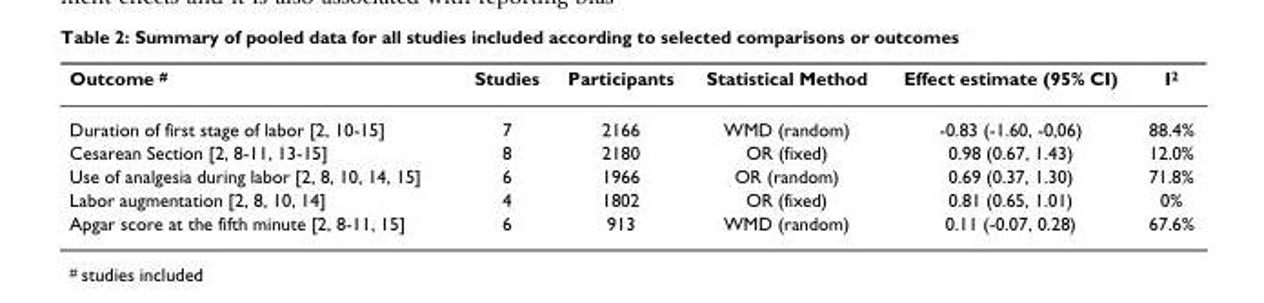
<table><thead><tr><td>Outcome #</td><td>Studies</td><td>Participants</td><td>Statistical Method</td><td>Effect estimate (95% CI)</td><td>I2</td></tr></thead><tbody><tr><td>Duration of first stage of labor [2, 10-15]</td><td>7</td><td>2166</td><td>WMD (random)</td><td>-0.83 (-1.60, -0,06)</td><td>88.4%</td></tr><tr><td>Cesarean Section [2, 8-11, 13-15]</td><td>8</td><td>2180</td><td>OR (fixed)</td><td>0.98 (0.67, 1.43)</td><td>12.0%</td></tr><tr><td>Use of analgesia during labor [2, 8, 10, 14, 15]</td><td>6</td><td>1966</td><td>OR (random)</td><td>0.69 (0.37, 1.30)</td><td>71.8%</td></tr><tr><td>Labor augmentation [2, 8, 10, 14]</td><td>4</td><td>1802</td><td>OR (fixed)</td><td>0.81 (0.65, 1.01)</td><td>0%</td></tr><tr><td>Apgar score at the fifth minute [2, 8-11, 15]</td><td>6</td><td>913</td><td>WMD (random)</td><td>0.11 (-0.07, 0.28)</td><td>67.6%</td></tr></tbody></table>